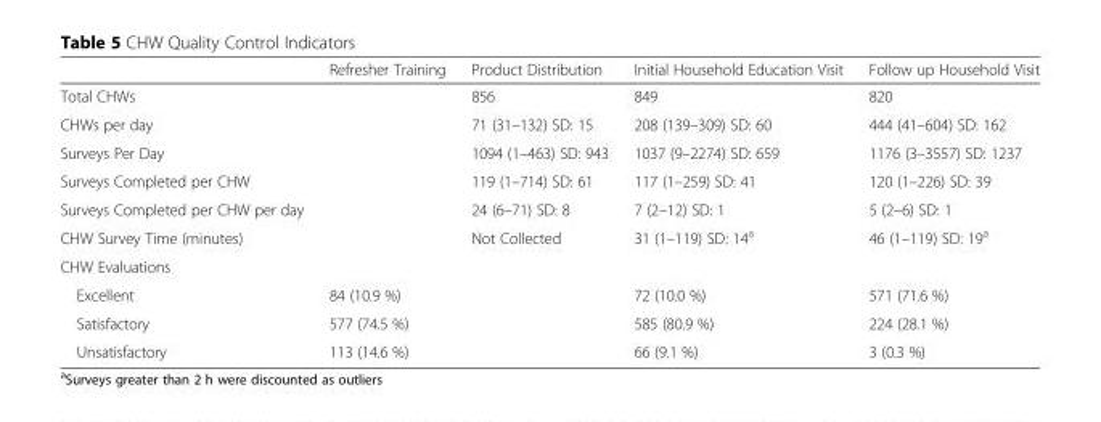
<table><thead><tr><td></td><td>Refresher Training</td><td>Product Distribution</td><td>Initial Household Education Visit</td><td>Follow up Household Visit</td></tr></thead><tbody><tr><td>Total CHWs</td><td></td><td>856</td><td>849</td><td>820</td></tr><tr><td>CHWs per day</td><td></td><td>71 (31–132) SD: 15</td><td>208 (139–309) SD: 60</td><td>444 (41–604) SD: 162</td></tr><tr><td>Surveys Per Day</td><td></td><td>1094 (1–463) SD: 943</td><td>1037 (9–2274) SD: 659</td><td>1176 (3–3557) SD: 1237</td></tr><tr><td>Surveys Completed per CHW</td><td></td><td>119 (1–714) SD: 61</td><td>117 (1–259) SD: 41</td><td>120 (1–226) SD: 39</td></tr><tr><td>Surveys Completed per CHW per day</td><td></td><td>24 (6–71) SD: 8</td><td>7 (2–12) SD: 1</td><td>5 (2–6) SD: 1</td></tr><tr><td>CHW Survey Time (minutes)</td><td></td><td>Not Collected</td><td>31 (1–119) SD: 14<sup>a</sup></td><td>46 (1–119) SD: 19<sup>a</sup></td></tr><tr><td colspan="5">CHW Evaluations</td></tr><tr><td>Excellent</td><td>84 (10.9 %)</td><td></td><td>72 (10.0 %)</td><td>571 (71.6 %)</td></tr><tr><td>Satisfactory</td><td>577 (74.5 %)</td><td></td><td>585 (80.9 %)</td><td>224 (28.1 %)</td></tr><tr><td>Unsatisfactory</td><td>113 (14.6 %)</td><td></td><td>66 (9.1 %)</td><td>3 (0.3 %)</td></tr></tbody></table>